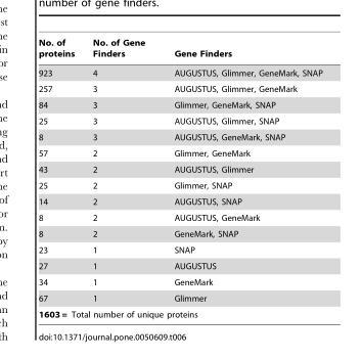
<table><thead><tr><td>No. of proteins</td><td>No. of Gene Finders</td><td>Gene Finders</td></tr></thead><tbody><tr><td>923</td><td>4</td><td>AUGUSTUS, Glimmer, GeneMark, SNAP</td></tr><tr><td>257</td><td>3</td><td>AUGUSTUS, Glimmer, GeneMark</td></tr><tr><td>84</td><td>3</td><td>Glimmer, GeneMark, SNAP</td></tr><tr><td>25</td><td>3</td><td>AUGUSTUS, Glimmer, SNAP</td></tr><tr><td>8</td><td>3</td><td>AUGUSTUS, GeneMark, SNAP</td></tr><tr><td>57</td><td>2</td><td>Glimmer, GeneMark</td></tr><tr><td>43</td><td>2</td><td>AUGUSTUS, Glimmer</td></tr><tr><td>25</td><td>2</td><td>Glimmer, SNAP</td></tr><tr><td>14</td><td>2</td><td>AUGUSTUS, SNAP</td></tr><tr><td>8</td><td>2</td><td>AUGUSTUS, GeneMark</td></tr><tr><td>8</td><td>2</td><td>GeneMark, SNAP</td></tr><tr><td>23</td><td>1</td><td>SNAP</td></tr><tr><td>27</td><td>1</td><td>AUGUSTUS</td></tr><tr><td>34</td><td>1</td><td>GeneMark</td></tr><tr><td>67</td><td>1</td><td>Glimmer</td></tr><tr><td colspan="3">1603 = Total number of unique proteins</td></tr></tbody></table>